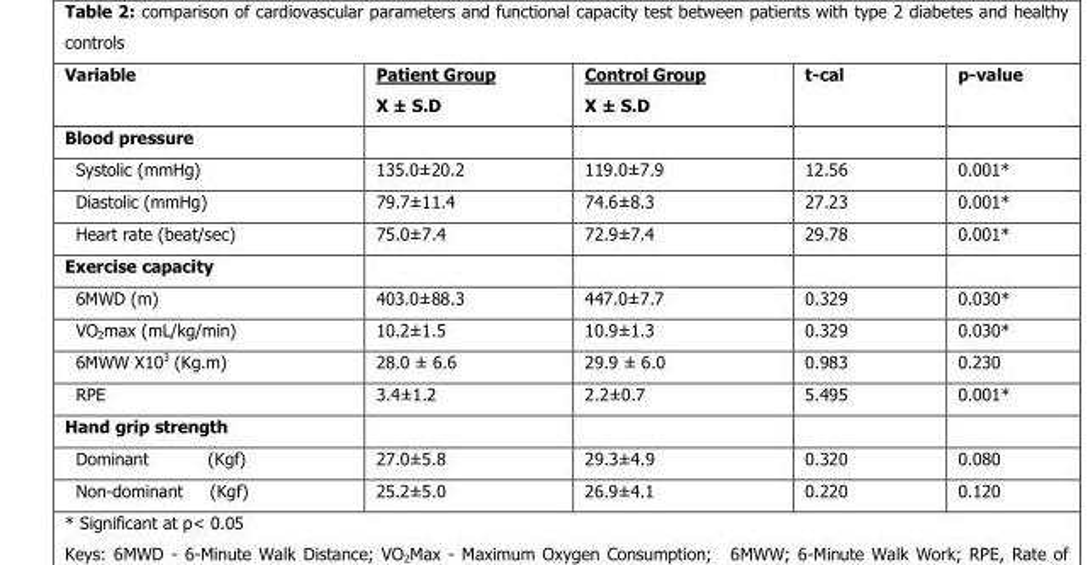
<table><thead><tr><td>Variable</td><td>Patient Group X ± S.D</td><td>Control Group X ± S.D</td><td>t-cal</td><td>p-value</td></tr></thead><tbody><tr><td colspan="5">Blood pressure</td></tr><tr><td>Systolic (mmHg)</td><td>135.0±20.2</td><td>119.0±7.9</td><td>12.56</td><td>0.001*</td></tr><tr><td>Diastolic (mmHg)</td><td>79.7±11.4</td><td>74.6±8.3</td><td>27.23</td><td>0.001*</td></tr><tr><td>Heart rate (beat/sec)</td><td>75.0±7.4</td><td>72.9±7.4</td><td>29.78</td><td>0.001*</td></tr><tr><td colspan="5">Exercise capacity</td></tr><tr><td>6MWD (m)</td><td>403.0±88.3</td><td>447.0±7.7</td><td>0.329</td><td>0.030*</td></tr><tr><td>VO<sub>2</sub>max (mL/kg/min)</td><td>10.2±1.5</td><td>10.9±1.3</td><td>0.329</td><td>0.030*</td></tr><tr><td>6MWW X10<sup>3</sup> (Kg.m)</td><td>28.0 ± 6.6</td><td>29.9 ± 6.0</td><td>0.983</td><td>0.230</td></tr><tr><td>RPE</td><td>3.4±1.2</td><td>2.2±0.7</td><td>5.495</td><td>0.001*</td></tr><tr><td colspan="5">Hand grip strength</td></tr><tr><td>Dominant (Kgf)</td><td>27.0±5.8</td><td>29.3±4.9</td><td>0.320</td><td>0.080</td></tr><tr><td>Non-dominant (Kgf)</td><td>25.2±5.0</td><td>26.9±4.1</td><td>0.220</td><td>0.120</td></tr></tbody></table>